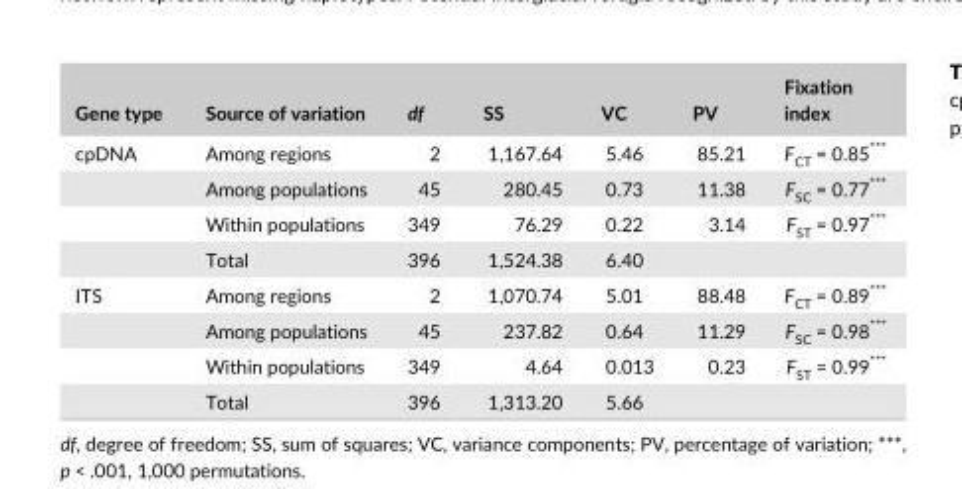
<table><thead><tr><td>Gene type</td><td>Source of variation</td><td>df</td><td>SS</td><td>VC</td><td>PV</td><td>Fixation index</td></tr></thead><tbody><tr><td rowspan="4">cpDNA</td><td>Among regions</td><td>2</td><td>1,167.64</td><td>5.46</td><td>85.21</td><td>F<sub>CT</sub> = 0.85***</td></tr><tr><td>Among populations</td><td>45</td><td>280.45</td><td>0.73</td><td>11.38</td><td>F<sub>SC</sub> = 0.77***</td></tr><tr><td>Within populations</td><td>349</td><td>76.29</td><td>0.22</td><td>3.14</td><td>F<sub>ST</sub> = 0.97***</td></tr><tr><td>Total</td><td>396</td><td>1,524.38</td><td>6.40</td><td></td><td></td></tr><tr><td rowspan="4">ITS</td><td>Among regions</td><td>2</td><td>1,070.74</td><td>5.01</td><td>88.48</td><td>F<sub>CT</sub> = 0.89***</td></tr><tr><td>Among populations</td><td>45</td><td>237.82</td><td>0.64</td><td>11.29</td><td>F<sub>SC</sub> = 0.98***</td></tr><tr><td>Within populations</td><td>349</td><td>4.64</td><td>0.013</td><td>0.23</td><td>F<sub>ST</sub> = 0.99***</td></tr><tr><td>Total</td><td>396</td><td>1,313.20</td><td>5.66</td><td></td><td></td></tr></tbody></table>